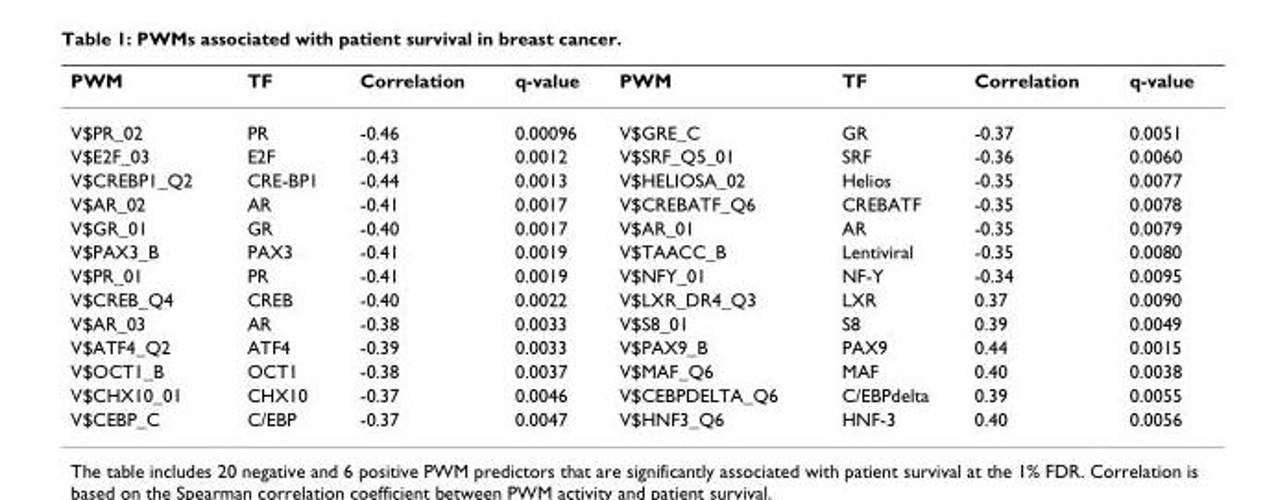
<table><thead><tr><td>PWM</td><td>TF</td><td>Correlation</td><td>q-value</td><td>PWM</td><td>TF</td><td>Correlation</td><td>q-value</td></tr></thead><tbody><tr><td>V$PR_02</td><td>PR</td><td>-0.46</td><td>0.00096</td><td>V$GRE_C</td><td>GR</td><td>-0.37</td><td>0.0051</td></tr><tr><td>V$E2F_03</td><td>E2F</td><td>-0.43</td><td>0.0012</td><td>V$SRF_Q5_01</td><td>SRF</td><td>-0.36</td><td>0.0060</td></tr><tr><td>V$CREBP1_Q2</td><td>CRE-BP1</td><td>-0.44</td><td>0.0013</td><td>V$HELIOSA_02</td><td>Helios</td><td>-0.35</td><td>0.0077</td></tr><tr><td>V$AR_02</td><td>AR</td><td>-0.41</td><td>0.0017</td><td>V$CREBATF_Q6</td><td>CREBATF</td><td>-0.35</td><td>0.0078</td></tr><tr><td>V$GR_01</td><td>GR</td><td>-0.40</td><td>0.0017</td><td>V$AR_01</td><td>AR</td><td>-0.35</td><td>0.0079</td></tr><tr><td>V$PAX3_B</td><td>PAX3</td><td>-0.41</td><td>0.0019</td><td>V$TAACC_B</td><td>Lentiviral</td><td>-0.35</td><td>0.0080</td></tr><tr><td>V$PR_01</td><td>PR</td><td>-0.41</td><td>0.0019</td><td>V$NFY_01</td><td>NF-Y</td><td>-0.34</td><td>0.0095</td></tr><tr><td>V$CREB_Q4</td><td>CREB</td><td>-0.40</td><td>0.0022</td><td>V$LXR_DR4_Q3</td><td>LXR</td><td>0.37</td><td>0.0090</td></tr><tr><td>V$AR_03</td><td>AR</td><td>-0.38</td><td>0.0033</td><td>V$S8_01</td><td>S8</td><td>0.39</td><td>0.0049</td></tr><tr><td>V$ATF4_Q2</td><td>ATF4</td><td>-0.39</td><td>0.0033</td><td>V$PAX9_B</td><td>PAX9</td><td>0.44</td><td>0.0015</td></tr><tr><td>V$OCT1_B</td><td>OCT1</td><td>-0.38</td><td>0.0037</td><td>V$MAF_Q6</td><td>MAF</td><td>0.40</td><td>0.0038</td></tr><tr><td>V$CHX10_01</td><td>CHX10</td><td>-0.37</td><td>0.0046</td><td>V$CEBPDELTA_Q6</td><td>C/EBPdelta</td><td>0.39</td><td>0.0055</td></tr><tr><td>V$CEBP_C</td><td>C/EBP</td><td>-0.37</td><td>0.0047</td><td>V$HNF3_Q6</td><td>HNF-3</td><td>0.40</td><td>0.0056</td></tr></tbody></table>